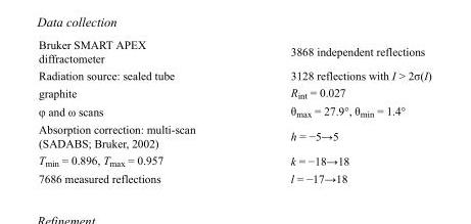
<table><tbody><tr><td>Bruker SMART APEX diffractometer</td><td>3868 independent reflections</td></tr><tr><td>Radiation source: sealed tube</td><td>3128 reflections with I &gt; 2σ(I)</td></tr><tr><td>graphite</td><td>R<sub>int</sub> = 0.027</td></tr><tr><td>φ and ω scans</td><td>θ<sub>max</sub> = 27.9°, θ<sub>min</sub> = 1.4°</td></tr><tr><td>Absorption correction: multi-scan (SADABS; Bruker, 2002)</td><td>h = −5→5</td></tr><tr><td>T<sub>min</sub> = 0.896, T<sub>max</sub> = 0.957</td><td>k = −18→18</td></tr><tr><td>7686 measured reflections</td><td>l = −17→18</td></tr></tbody></table>